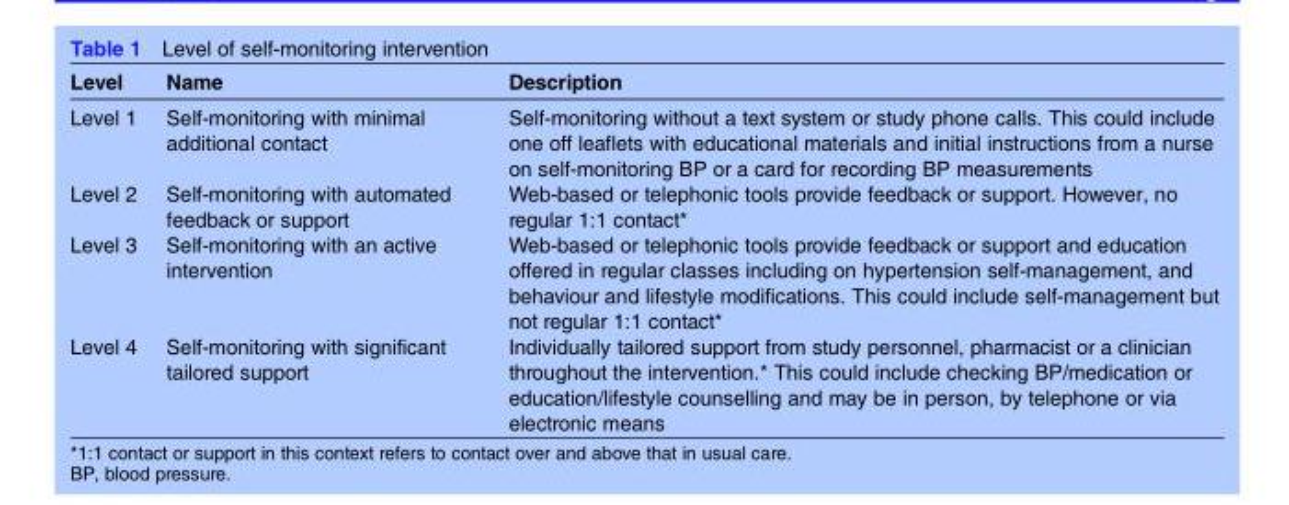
<table><thead><tr><td>Level</td><td>Name</td><td>Description</td></tr></thead><tbody><tr><td>Level 1</td><td>Self-monitoring with minimal additional contact</td><td>Self-monitoring without a text system or study phone calls. This could include one off leaflets with educational materials and initial instructions from a nurse on self-monitoring BP or a card for recording BP measurements</td></tr><tr><td>Level 2</td><td>Self-monitoring with automated feedback or support</td><td>Web-based or telephonic tools provide feedback or support. However, no regular 1:1 contact*</td></tr><tr><td>Level 3</td><td>Self-monitoring with an active intervention</td><td>Web-based or telephonic tools provide feedback or support and education offered in regular classes including on hypertension self-management, and behaviour and lifestyle modifications. This could include self-management but not regular 1:1 contact*</td></tr><tr><td>Level 4</td><td>Self-monitoring with significant tailored support</td><td>Individually tailored support from study personnel, pharmacist or a clinician throughout the intervention.* This could include checking BP/medication or education/lifestyle counselling and may be in person, by telephone or via electronic means</td></tr></tbody></table>